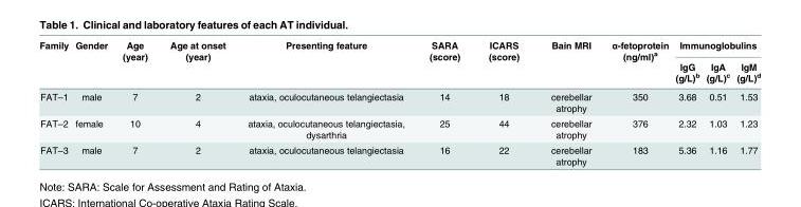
<table><thead><tr><td rowspan="2">Family</td><td rowspan="2">Gender</td><td rowspan="2">Age (year)</td><td rowspan="2">Age at onset (year)</td><td rowspan="2">Presenting feature</td><td rowspan="2">SARA (score)</td><td rowspan="2">ICARS (score)</td><td rowspan="2">Bain MRI</td><td rowspan="2">α-fetoprotein (ng/ml)<sup>a</sup></td><td colspan="3">Immunoglobulins</td></tr><tr><td>lgG (g/L)<sup>b</sup></td><td>lgA (g/L)<sup>c</sup></td><td>lgM (g/L)<sup>d</sup></td></tr></thead><tbody><tr><td>FAT–1</td><td>male</td><td>7</td><td>2</td><td>ataxia, oculocutaneous telangiectasia</td><td>14</td><td>18</td><td>cerebellar atrophy</td><td>350</td><td>3.68</td><td>0.51</td><td>1.53</td></tr><tr><td>FAT–2</td><td>female</td><td>10</td><td>4</td><td>ataxia, oculocutaneous telangiectasia, dysarthria</td><td>25</td><td>44</td><td>cerebellar atrophy</td><td>376</td><td>2.32</td><td>1.03</td><td>1.23</td></tr><tr><td>FAT–3</td><td>male</td><td>7</td><td>2</td><td>ataxia, oculocutaneous telangiectasia</td><td>16</td><td>22</td><td>cerebellar atrophy</td><td>183</td><td>5.36</td><td>1.16</td><td>1.77</td></tr></tbody></table>